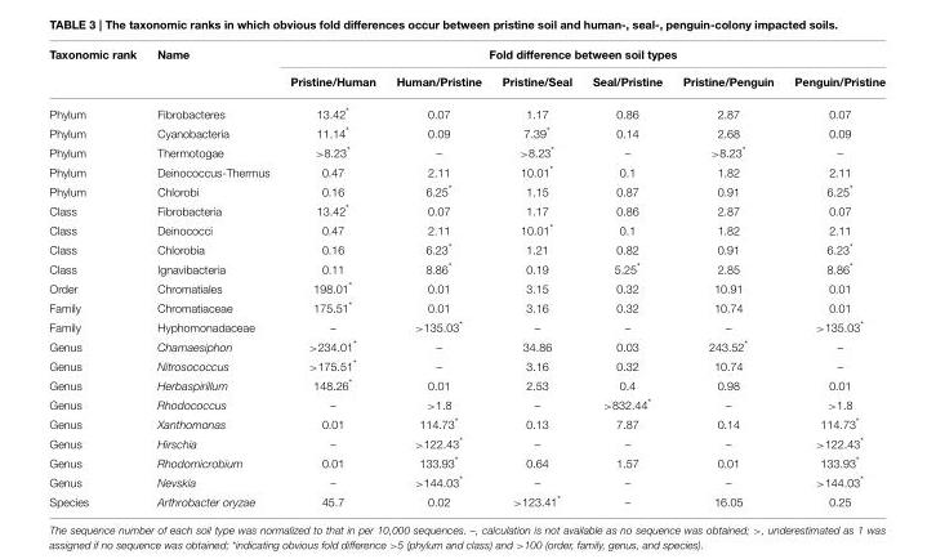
<table><thead><tr><td rowspan="2">Taxonomic rank</td><td rowspan="2">Name</td><td colspan="6">Fold difference between soil types</td></tr><tr><td>Pristine/Human</td><td>Human/Pristine</td><td>Pristine/Seal</td><td>Seal/Pristine</td><td>Pristine/Penguin</td><td>Penguin/Pristine</td></tr></thead><tbody><tr><td>Phylum</td><td>Fibrobacteres</td><td>13.42*</td><td>0.07</td><td>1.17</td><td>0.86</td><td>2.87</td><td>0.07</td></tr><tr><td>Phylum</td><td>Cyanobacteria</td><td>11.14*</td><td>0.09</td><td>7.39*</td><td>0.14</td><td>2.68</td><td>0.09</td></tr><tr><td>Phylum</td><td>Thermotogae</td><td>&gt;8.23*</td><td>–</td><td>&gt;8.23*</td><td>–</td><td>&gt;8.23*</td><td>–</td></tr><tr><td>Phylum</td><td>Deinococcus-Thermus</td><td>0.47</td><td>2.11</td><td>10.01*</td><td>0.1</td><td>1.82</td><td>2.11</td></tr><tr><td>Phylum</td><td>Chlorobi</td><td>0.16</td><td>6.25*</td><td>1.15</td><td>0.87</td><td>0.91</td><td>6.25*</td></tr><tr><td>Class</td><td>Fibrobacteria</td><td>13.42*</td><td>0.07</td><td>1.17</td><td>0.86</td><td>2.87</td><td>0.07</td></tr><tr><td>Class</td><td>Deinococci</td><td>0.47</td><td>2.11</td><td>10.01*</td><td>0.1</td><td>1.82</td><td>2.11</td></tr><tr><td>Class</td><td>Chlorobia</td><td>0.16</td><td>6.23*</td><td>1.21</td><td>0.82</td><td>0.91</td><td>6.23*</td></tr><tr><td>Class</td><td>Ignavibacteria</td><td>0.11</td><td>8.86*</td><td>0.19</td><td>5.25*</td><td>2.85</td><td>8.86*</td></tr><tr><td>Order</td><td>Chromatiales</td><td>198.01*</td><td>0.01</td><td>3.15</td><td>0.32</td><td>10.91</td><td>0.01</td></tr><tr><td>Family</td><td>Chromatiaceae</td><td>175.51*</td><td>0.01</td><td>3.16</td><td>0.32</td><td>10.74</td><td>0.01</td></tr><tr><td>Family</td><td>Hyphomonadaceae</td><td>–</td><td>&gt;135.03*</td><td>–</td><td>–</td><td>–</td><td>&gt;135.03*</td></tr><tr><td>Genus</td><td>Chamaesiphon</td><td>&gt;234.01*</td><td>–</td><td>34.86</td><td>0.03</td><td>243.52*</td><td>–</td></tr><tr><td>Genus</td><td>Nitrosococcus</td><td>&gt;175.51*</td><td>–</td><td>3.16</td><td>0.32</td><td>10.74</td><td>–</td></tr><tr><td>Genus</td><td>Herbaspirillum</td><td>148.26*</td><td>0.01</td><td>2.53</td><td>0.4</td><td>0.98</td><td>0.01</td></tr><tr><td>Genus</td><td>Rhodococcus</td><td>–</td><td>&gt;1.8</td><td>–</td><td>&gt;832.44*</td><td>–</td><td>&gt;1.8</td></tr><tr><td>Genus</td><td>Xanthomonas</td><td>0.01</td><td>114.73*</td><td>0.13</td><td>7.87</td><td>0.14</td><td>114.73*</td></tr><tr><td>Genus</td><td>Hirschia</td><td>–</td><td>&gt;122.43*</td><td>–</td><td>–</td><td>–</td><td>&gt;122.43*</td></tr><tr><td>Genus</td><td>Rhodomicrobium</td><td>0.01</td><td>133.93*</td><td>0.64</td><td>1.57</td><td>0.01</td><td>133.93*</td></tr><tr><td>Genus</td><td>Nevskia</td><td>–</td><td>&gt;144.03*</td><td>–</td><td>–</td><td>–</td><td>&gt;144.03*</td></tr><tr><td>Species</td><td>Arthrobacter oryzae</td><td>45.7</td><td>0.02</td><td>&gt;123.41*</td><td>–</td><td>16.05</td><td>0.25</td></tr></tbody></table>